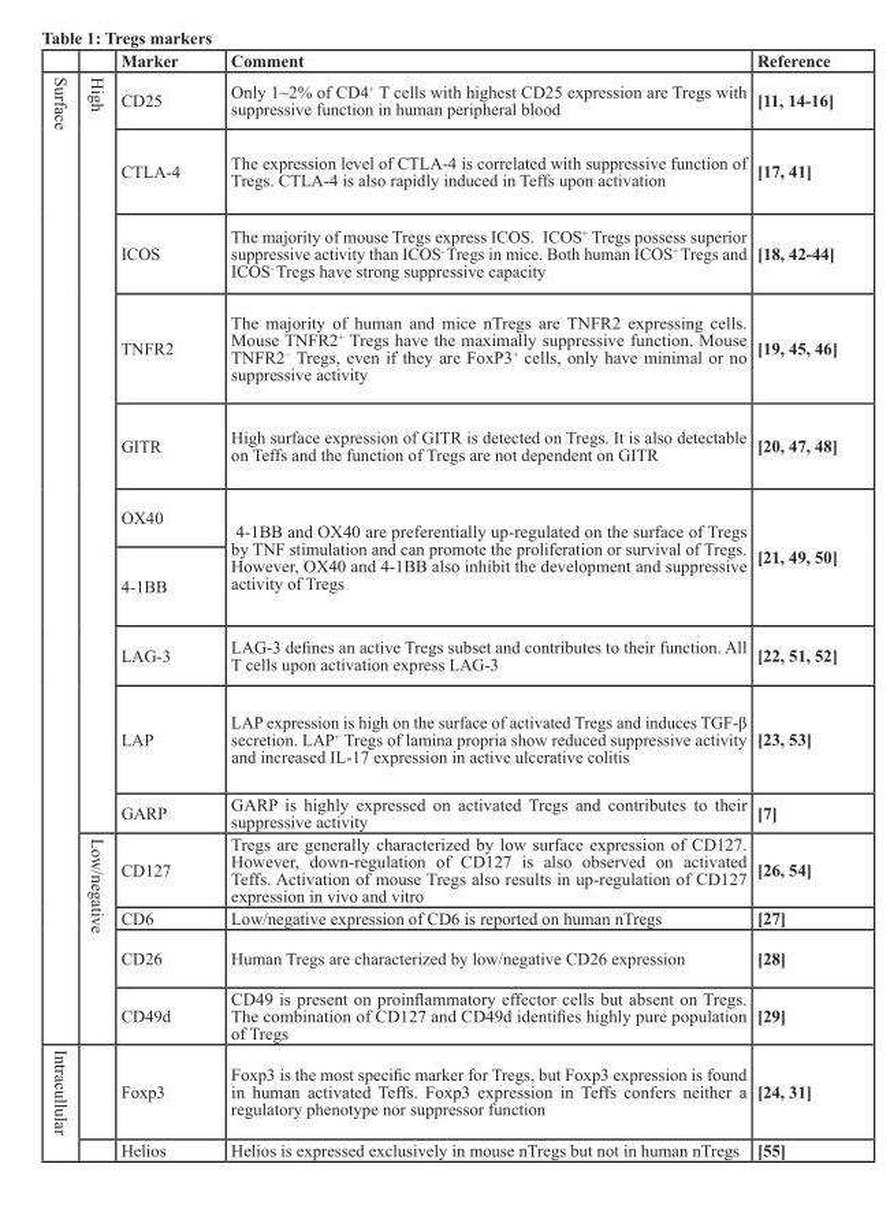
<table><thead><tr><td></td><td></td><td>Marker</td><td>comment</td><td>reference</td></tr></thead><tbody><tr><td rowspan="14">Surface</td><td rowspan="10">High</td><td>CD25</td><td>Only 1~2% of CD4<sup>+</sup> T cells with highest CD25 expression are Tregs with suppressive function in human peripheral blood</td><td>[11, 14-16]</td></tr><tr><td>CTLA-4</td><td>The expression level of CTLA-4 is correlated with suppressive function of Tregs. CTLA-4 is also rapidly induced in Teffs upon activation</td><td>[17, 41]</td></tr><tr><td>ICOS</td><td>The majority of mouse Tregs express ICOS. ICOS<sup>+</sup> Tregs possess superior suppressive activity than ICOS<sup>-</sup> Tregs in mice. Both human ICOS<sup>+</sup> Tregs and ICOS<sup>-</sup> Tregs have strong suppressive capacity</td><td>[18, 42-44]</td></tr><tr><td>TNFR2</td><td>The majority of human and mice nTregs are TNFR2 expressing cells. Mouse TNFR2<sup>+</sup> Tregs have the maximally suppressive function. Mouse TNFR2<sup>−</sup> Tregs, even if they are FoxP3<sup>+</sup> cells, only have minimal or no suppressive activity</td><td>[19, 45, 46]</td></tr><tr><td>GITR</td><td>High surface expression of GITR is detected on Tregs. It is also detectable on Teffs and the function of Tregs are not dependent on GITR</td><td>[20, 47, 48]</td></tr><tr><td>OX40</td><td rowspan="2">4-1BB and OX40 are preferentially up-regulated on the surface of Tregs by TNF stimulation and can promote the proliferation or survival of Tregs. However, OX40 and 4-1BB also inhibit the development and suppressive activity of Tregs</td><td rowspan="2">[21, 49, 50]</td></tr><tr><td>4-1BB</td></tr><tr><td>LAG-3</td><td>LAG-3 defines an active Tregs subset and contributes to their function. All T cells upon activation express LAG-3</td><td>[22, 51, 52]</td></tr><tr><td>LAP</td><td>LAP expression is high on the surface of activated Tregs and induces TGF-β secretion. LAP<sup>+</sup> Tregs of lamina propria show reduced suppressive activity and increased IL-17 expression in active ulcerative colitis</td><td>[23, 53]</td></tr><tr><td>GARP</td><td>GARP is highly expressed on activated Tregs and contributes to their suppressive activity</td><td>[7]</td></tr><tr><td rowspan="4">Low/negative</td><td>CD127</td><td>Tregs are generally characterized by low surface expression of CD127. However, down-regulation of CD127 is also observed on activated Teffs. Activation of mouse Tregs also results in up-regulation of CD127 expression in vivo and vitro</td><td>[26, 54]</td></tr><tr><td>CD6</td><td>Low/negative expression of CD6 is reported on human nTregs</td><td>[27]</td></tr><tr><td>CD26</td><td>Human Tregs are characterized by low/negative CD26 expression</td><td>[28]</td></tr><tr><td>CD49d</td><td>CD49 is present on proinflammatory effector cells but absent on Tregs. The combination of CD127 and CD49d identifies highly pure population of Tregs</td><td>[29]</td></tr><tr><td rowspan="2">Intracullular</td><td></td><td>Foxp3</td><td>Foxp3 is the most specific marker for Tregs, but Foxp3 expression is found in human activated Teffs. Foxp3 expression in Teffs confers neither a regulatory phenotype nor suppressor function</td><td>[24, 31]</td></tr><tr><td></td><td>Helios</td><td>Helios is expressed exclusively in mouse nTregs but not in human nTregs</td><td>[55]</td></tr></tbody></table>